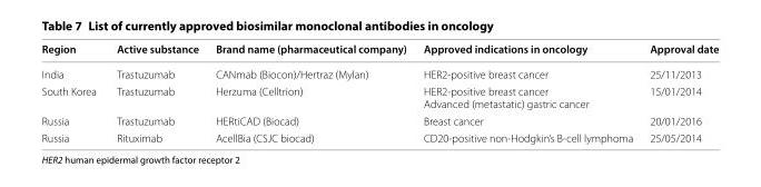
<table><thead><tr><td>Region</td><td>Active substance</td><td>Brand name (pharmaceutical company)</td><td>Approved indications in oncology</td><td>Approval date</td></tr></thead><tbody><tr><td>India</td><td>Trastuzumab</td><td>CANmab (Biocon)/Hertraz (Mylan)</td><td>HER2-positive breast cancer</td><td>25/11/2013</td></tr><tr><td>South Korea</td><td>Trastuzumab</td><td>Herzuma (Celltrion)</td><td>HER2-positive breast cancer Advanced (metastatic) gastric cancer</td><td>15/01/2014</td></tr><tr><td>Russia</td><td>Trastuzumab</td><td>HERtiCAD (Biocad)</td><td>Breast cancer</td><td>20/01/2016</td></tr><tr><td>Russia</td><td>Rituximab</td><td>AcellBia (CSJC biocad)</td><td>CD20-positive non-Hodgkin’s B-cell lymphoma</td><td>25/05/2014</td></tr></tbody></table>